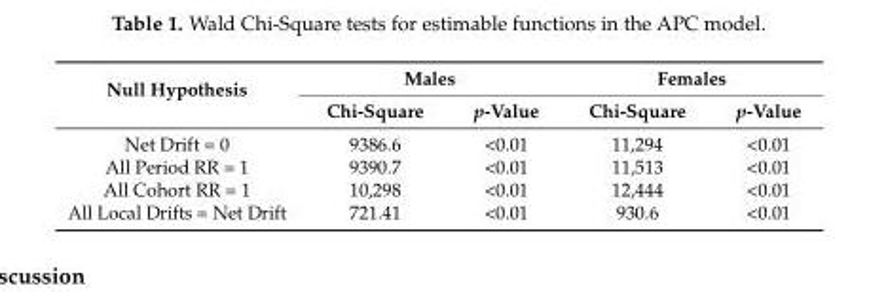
<table><thead><tr><td rowspan="2">Null Hypothesis</td><td colspan="2">Males</td><td colspan="2">Females</td></tr><tr><td>Chi-Square</td><td>p-Value</td><td>Chi-Square</td><td>p-Value</td></tr></thead><tbody><tr><td>Net Drift = 0</td><td>9386.6</td><td>&lt;0.01</td><td>11,294</td><td>&lt;0.01</td></tr><tr><td>All Period RR = 1</td><td>9390.7</td><td>&lt;0.01</td><td>11,513</td><td>&lt;0.01</td></tr><tr><td>All Cohort RR = 1</td><td>10,298</td><td>&lt;0.01</td><td>12,444</td><td>&lt;0.01</td></tr><tr><td>All Local Drifts = Net Drift</td><td>721.41</td><td>&lt;0.01</td><td>930.6</td><td>&lt;0.01</td></tr></tbody></table>